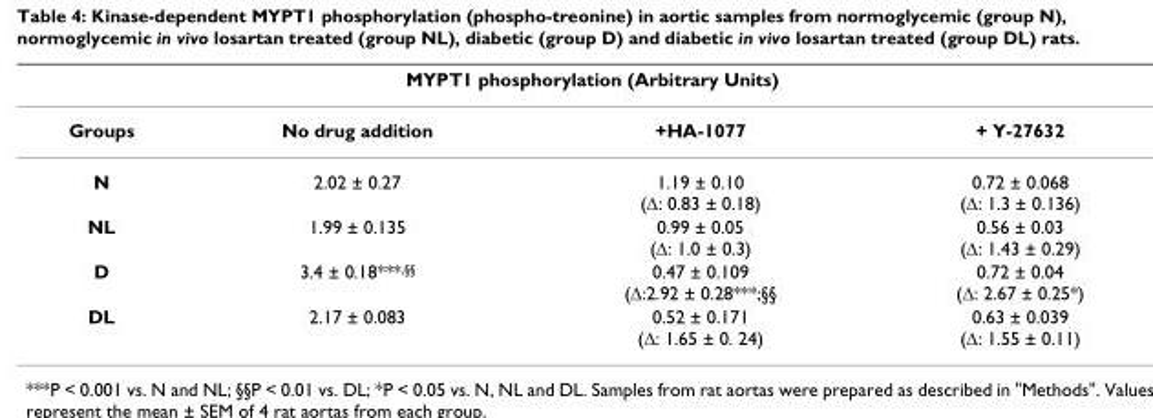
<table><thead><tr><td colspan="4">MYPT1 phosphorylation (Arbitrary Units)</td></tr><tr><td>Groups</td><td>No drug addition</td><td>+HA-1077</td><td>+ Y-27632</td></tr></thead><tbody><tr><td>N</td><td>2.02 ± 0.27</td><td>1.19 ± 0.10 (Δ: 0.83 ± 0.18)</td><td>0.72 ± 0.068 (Δ: 1.3 ± 0.136)</td></tr><tr><td>NL</td><td>1.99 ± 0.135</td><td>0.99 ± 0.05 (Δ: 1.0 ± 0.3)</td><td>0.56 ± 0.03 (Δ: 1.43 ± 0.29)</td></tr><tr><td>D</td><td>3.4 ± 0.18***<sup>,§§</sup></td><td>0.47 ± 0.109 (Δ:2.92 ± 0.28***;§§</td><td>0.72 ± 0.04 (Δ: 2.67 ± 0.25*)</td></tr><tr><td>DL</td><td>2.17 ± 0.083</td><td>0.52 ± 0.171 (Δ: 1.65 ± 0. 24)</td><td>0.63 ± 0.039 (Δ: 1.55 ± 0.11)</td></tr></tbody></table>